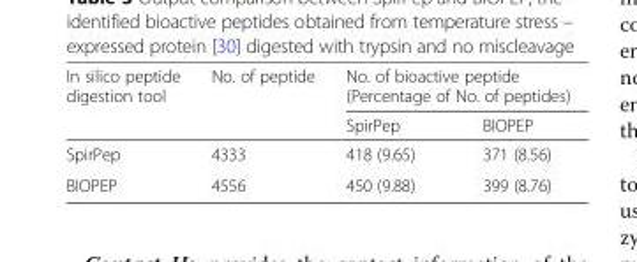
<table><thead><tr><td rowspan="2">In silico peptide digestion tool</td><td rowspan="2">No. of peptide</td><td colspan="2">No. of bioactive peptide (Percentage of No. of peptides)</td></tr><tr><td>SpirPep</td><td>BIOPEP</td></tr></thead><tbody><tr><td>SpirPep</td><td>4333</td><td>418 (9.65)</td><td>371 (8.56)</td></tr><tr><td>BIOPEP</td><td>4556</td><td>450 (9.88)</td><td>399 (8.76)</td></tr></tbody></table>